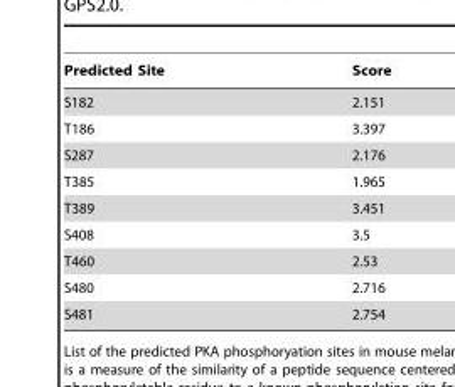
<table><thead><tr><td>Predicted Site</td><td>Score</td></tr></thead><tbody><tr><td>S182</td><td>2.151</td></tr><tr><td>T186</td><td>3.397</td></tr><tr><td>S287</td><td>2.176</td></tr><tr><td>T385</td><td>1.965</td></tr><tr><td>T389</td><td>3.451</td></tr><tr><td>S408</td><td>3.5</td></tr><tr><td>T460</td><td>2.53</td></tr><tr><td>S480</td><td>2.716</td></tr><tr><td>S481</td><td>2.754</td></tr></tbody></table>